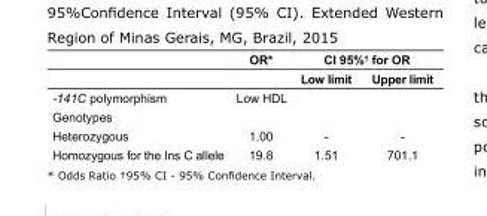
<table><thead><tr><td rowspan="2"></td><td rowspan="2">OR*</td><td colspan="2">CI 95%<sup>†</sup> for OR</td></tr><tr><td>Low limit</td><td>Upper limit</td></tr></thead><tbody><tr><td>-141C polymorphism</td><td colspan="2">Low HDL</td><td></td></tr><tr><td colspan="4">Genotypes</td></tr><tr><td>Heterozygous</td><td>1.00</td><td>-</td><td>-</td></tr><tr><td>Homozygous for the Ins C allele</td><td>19.8</td><td>1.51</td><td>701.1</td></tr></tbody></table>